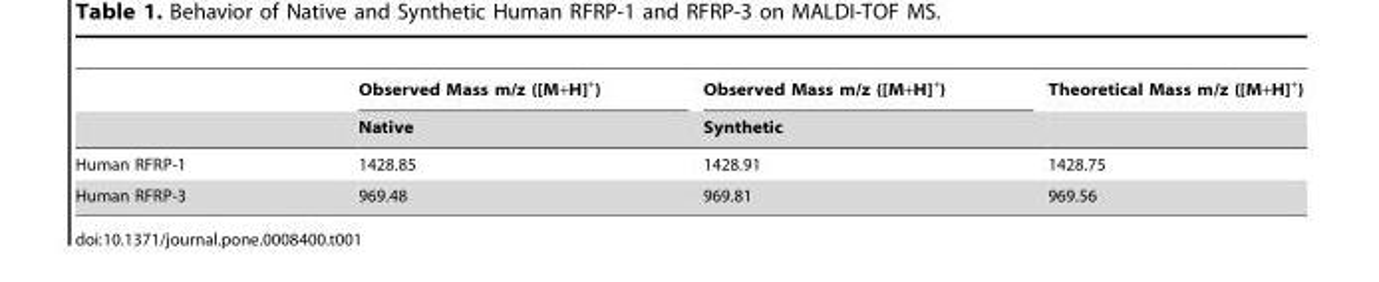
<table><thead><tr><td rowspan="2"></td><td rowspan="2">Observed Mass m/z ([M+H]<sup>+</sup>) Native</td><td rowspan="2">Observed Mass m/z ([M+H]<sup>+</sup>) Synthetic</td><td rowspan="2">Theoretical Mass m/z ([M+H]<sup>+</sup>)</td></tr><tr></tr></thead><tbody><tr><td>Human RFRP-1</td><td>1428.85</td><td>1428.91</td><td>1428.75</td></tr><tr><td>Human RFRP-3</td><td>969.48</td><td>969.81</td><td>969.56</td></tr></tbody></table>